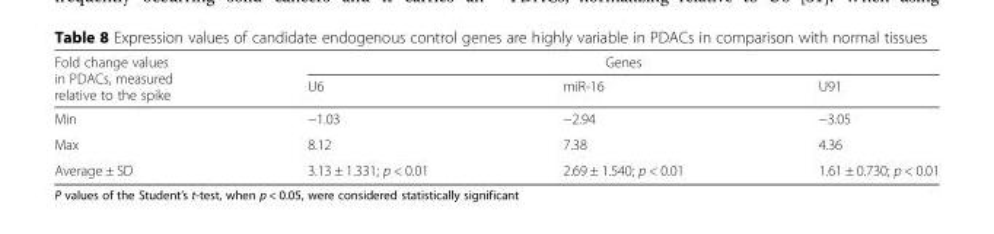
<table><thead><tr><td rowspan="2">Fold change values in PDACs, measured relative to the spike</td><td colspan="3">Genes</td></tr><tr><td>U6</td><td>miR-16</td><td>U91</td></tr></thead><tbody><tr><td>Min</td><td>−1.03</td><td>−2.94</td><td>−3.05</td></tr><tr><td>Max</td><td>8.12</td><td>7.38</td><td>4.36</td></tr><tr><td>Average ± SD</td><td>3.13 ± 1.331; p &lt; 0.01</td><td>2.69 ± 1.540; p &lt; 0.01</td><td>1.61 ± 0.730; p &lt; 0.01</td></tr></tbody></table>